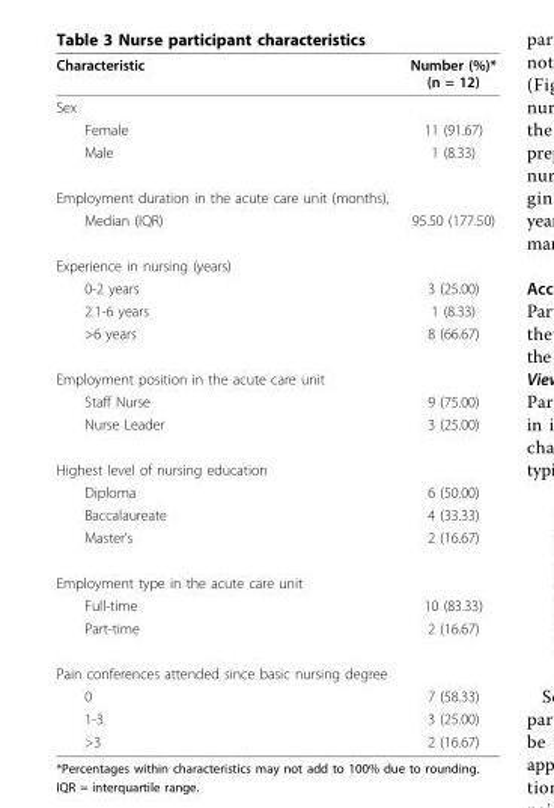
<table><thead><tr><td>Characteristic</td><td>Number (%)* (n = 12)</td></tr></thead><tbody><tr><td colspan="2">Sex</td></tr><tr><td>Female</td><td>11 (91.67)</td></tr><tr><td>Male</td><td>1 (8.33)</td></tr><tr><td colspan="2">Employment duration in the acute care unit (months),</td></tr><tr><td>Median (IQR)</td><td>95.50 (177.50)</td></tr><tr><td colspan="2">Experience in nursing (years)</td></tr><tr><td>0-2 years</td><td>3 (25.00)</td></tr><tr><td>2.1-6 years</td><td>1 (8.33)</td></tr><tr><td>&gt;6 years</td><td>8 (66.67)</td></tr><tr><td colspan="2">Employment position in the acute care unit</td></tr><tr><td>Staff Nurse</td><td>9 (75.00)</td></tr><tr><td>Nurse Leader</td><td>3 (25.00)</td></tr><tr><td colspan="2">Highest level of nursing education</td></tr><tr><td>Diploma</td><td>6 (50.00)</td></tr><tr><td>Baccalaureate</td><td>4 (33.33)</td></tr><tr><td>Master’s</td><td>2 (16.67)</td></tr><tr><td colspan="2">Employment type in the acute care unit</td></tr><tr><td>Full-time</td><td>10 (83.33)</td></tr><tr><td>Part-time</td><td>2 (16.67)</td></tr><tr><td colspan="2">Pain conferences attended since basic nursing degree</td></tr><tr><td>0</td><td>7 (58.33)</td></tr><tr><td>1-3</td><td>3 (25.00)</td></tr><tr><td>&gt;3</td><td>2 (16.67)</td></tr></tbody></table>